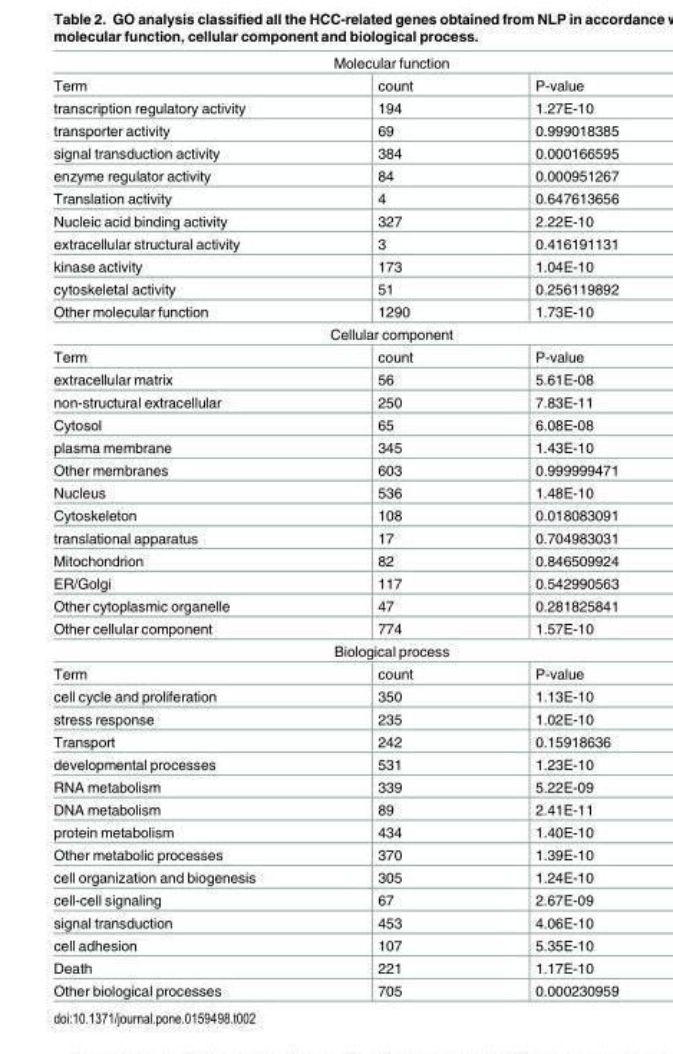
<table><tbody><tr><td colspan="3">Molecular function</td></tr><tr><td>Term</td><td>count</td><td>P-value</td></tr><tr><td>transcription regulatory activity</td><td>194</td><td>1.27E-10</td></tr><tr><td>transporter activity</td><td>69</td><td>0.999018385</td></tr><tr><td>signal transduction activity</td><td>384</td><td>0.000166595</td></tr><tr><td>enzyme regulator activity</td><td>84</td><td>0.000951267</td></tr><tr><td>Translation activity</td><td>4</td><td>0.647613656</td></tr><tr><td>Nucleic acid binding activity</td><td>327</td><td>2.22E-10</td></tr><tr><td>extracellular structural activity</td><td>3</td><td>0.416191131</td></tr><tr><td>kinase activity</td><td>173</td><td>1.04E-10</td></tr><tr><td>cytoskeletal activity</td><td>51</td><td>0.256119892</td></tr><tr><td>Other molecular function</td><td>1290</td><td>1.73E-10</td></tr><tr><td colspan="3">Cellular component</td></tr><tr><td>Term</td><td>count</td><td>P-value</td></tr><tr><td>extracellular matrix</td><td>56</td><td>5.61E-08</td></tr><tr><td>non-structural extracellular</td><td>250</td><td>7.83E-11</td></tr><tr><td>Cytosol</td><td>65</td><td>6.08E-08</td></tr><tr><td>plasma membrane</td><td>345</td><td>1.43E-10</td></tr><tr><td>Other membranes</td><td>603</td><td>0.999999471</td></tr><tr><td>Nucleus</td><td>536</td><td>1.48E-10</td></tr><tr><td>Cytoskeleton</td><td>108</td><td>0.018083091</td></tr><tr><td>translational apparatus</td><td>17</td><td>0.704983031</td></tr><tr><td>Mitochondrion</td><td>82</td><td>0.846509924</td></tr><tr><td>ER/Golgi</td><td>117</td><td>0.542990563</td></tr><tr><td>Other cytoplasmic organelle</td><td>47</td><td>0.281825841</td></tr><tr><td>Other cellular component</td><td>774</td><td>1.57E-10</td></tr><tr><td colspan="3">Biological process</td></tr><tr><td>Term</td><td>count</td><td>P-value</td></tr><tr><td>cell cycle and proliferation</td><td>350</td><td>1.13E-10</td></tr><tr><td>stress response</td><td>235</td><td>1.02E-10</td></tr><tr><td>Transport</td><td>242</td><td>0.15918636</td></tr><tr><td>developmental processes</td><td>531</td><td>1.23E-10</td></tr><tr><td>RNA metabolism</td><td>339</td><td>5.22E-09</td></tr><tr><td>DNA metabolism</td><td>89</td><td>2.41E-11</td></tr><tr><td>protein metabolism</td><td>434</td><td>1.40E-10</td></tr><tr><td>Other metabolic processes</td><td>370</td><td>1.39E-10</td></tr><tr><td>cell organization and biogenesis</td><td>305</td><td>1.24E-10</td></tr><tr><td>cell-cell signaling</td><td>67</td><td>2.67E-09</td></tr><tr><td>signal transduction</td><td>453</td><td>4.06E-10</td></tr><tr><td>cell adhesion</td><td>107</td><td>5.35E-10</td></tr><tr><td>Death</td><td>221</td><td>1.17E-10</td></tr><tr><td>Other biological processes</td><td>705</td><td>0.000230959</td></tr></tbody></table>